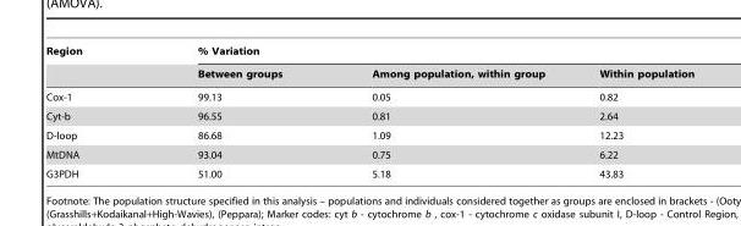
<table><thead><tr><td rowspan="2">Region</td><td colspan="3">% Variation</td></tr><tr><td>Between groups</td><td>Among population, within group</td><td>Within population</td></tr></thead><tbody><tr><td>Cox-1</td><td>99.13</td><td>0.05</td><td>0.82</td></tr><tr><td>Cyt-b</td><td>96.55</td><td>0.81</td><td>2.64</td></tr><tr><td>D-loop</td><td>86.68</td><td>1.09</td><td>12.23</td></tr><tr><td>MtDNA</td><td>93.04</td><td>0.75</td><td>6.22</td></tr><tr><td>G3PDH</td><td>51.00</td><td>5.18</td><td>43.83</td></tr></tbody></table>